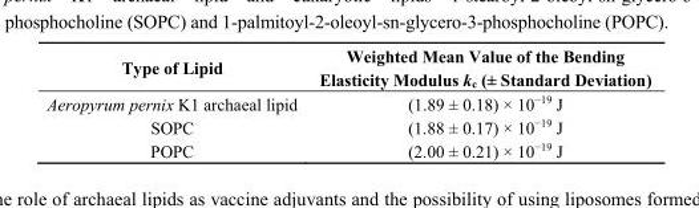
<table><thead><tr><td>Type of Lipid</td><td>Weighted Mean Value of the Bending Elasticity Modulus k<sub>c</sub> (± Standard Deviation)</td></tr></thead><tbody><tr><td>Aeropyrum pernix K1 archaeal lipid</td><td>(1.89 ± 0.18) × 10<sup>−19</sup> J</td></tr><tr><td>SOPC</td><td>(1.88 ± 0.17) × 10<sup>−19</sup> J</td></tr><tr><td>POPC</td><td>(2.00 ± 0.21) × 10<sup>−19</sup> J</td></tr></tbody></table>